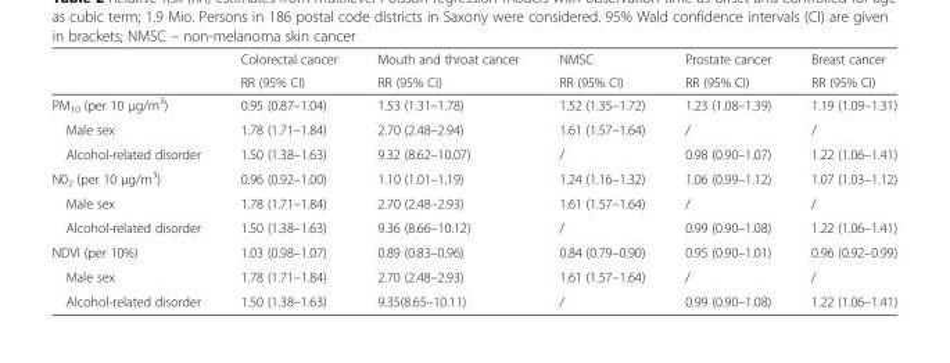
<table><thead><tr><td rowspan="2"></td><td rowspan="2">Colorectal cancer RR (95% CI)</td><td rowspan="2">Mouth and throat cancer RR (95% CI)</td><td rowspan="2">NMSC RR (95% CI)</td><td rowspan="2">Prostate cancer RR (95% CI)</td><td rowspan="2">Breast cancer RR (95% CI)</td></tr><tr></tr></thead><tbody><tr><td>PM<sub>10</sub> (per 10 μg/m<sup>3</sup>)</td><td>0.95 (0.87–1.04)</td><td>1.53 (1.31–1.78)</td><td>1.52 (1.35–1.72)</td><td>1.23 (1.08–1.39)</td><td>1.19 (1.09–1.31)</td></tr><tr><td>Male sex</td><td>1.78 (1.71–1.84)</td><td>2.70 (2.48–2.94)</td><td>1.61 (1.57–1.64)</td><td>/</td><td>/</td></tr><tr><td>Alcohol-related disorder</td><td>1.50 (1.38–1.63)</td><td>9.32 (8.62–10.07)</td><td>/</td><td>0.98 (0.90–1.07)</td><td>1.22 (1.06–1.41)</td></tr><tr><td>N0<sub>2</sub> (per 10 μg/m<sup>3</sup>)</td><td>0.96 (0.92–1.00)</td><td>1.10 (1.01–1.19)</td><td>1.24 (1.16–1.32)</td><td>1.06 (0.99–1.12)</td><td>1.07 (1.03–1.12)</td></tr><tr><td>Male sex</td><td>1.78 (1.71–1.84)</td><td>2.70 (2.48–2.93)</td><td>1.61 (1.57–1.64)</td><td>/</td><td>/</td></tr><tr><td>Alcohol-related disorder</td><td>1.50 (1.38–1.63)</td><td>9.36 (8.66–10.12)</td><td>/</td><td>0.99 (0.90–1.08)</td><td>1.22 (1.06–1.41)</td></tr><tr><td>NDVI (per 10%)</td><td>1.03 (0.98–1.07)</td><td>0.89 (0.83–0.96)</td><td>0.84 (0.79–0.90)</td><td>0.95 (0.90–1.01)</td><td>0.96 (0.92–0.99)</td></tr><tr><td>Male sex</td><td>1.78 (1.71–1.84)</td><td>2.70 (2.48–2.93)</td><td>1.61 (1.57–1.64)</td><td>/</td><td>/</td></tr><tr><td>Alcohol-related disorder</td><td>1.50 (1.38–1.63)</td><td>9.35(8.65–10.11)</td><td>/</td><td>0.99 (0.90–1.08)</td><td>1.22 (1.06–1.41)</td></tr></tbody></table>